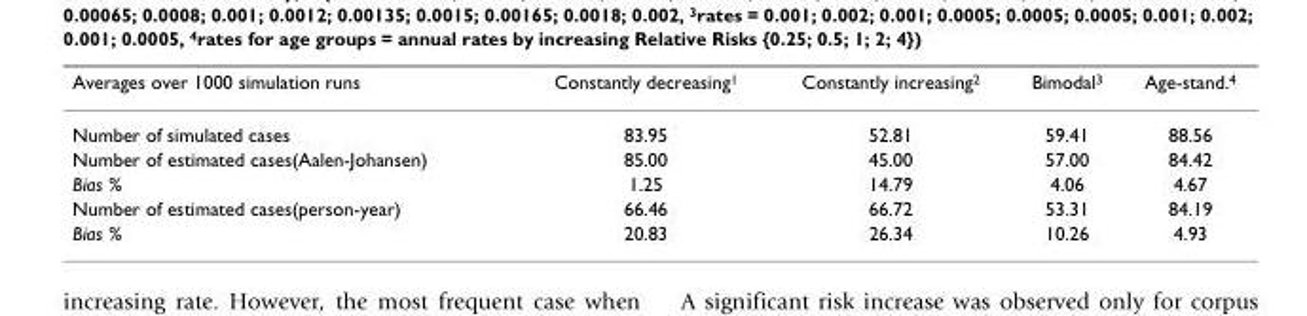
<table><thead><tr><td>Averages over 1000 simulation runs</td><td>Constantly decreasing<sup>1</sup></td><td>Constantly increasing<sup>2</sup></td><td>Bimodal<sup>3</sup></td><td>Age-stand.<sup>4</sup></td></tr></thead><tbody><tr><td>Number of simulated cases</td><td>83.95</td><td>52.81</td><td>59.41</td><td>88.56</td></tr><tr><td>Number of estimated cases(Aalen-Johansen)</td><td>85.00</td><td>45.00</td><td>57.00</td><td>84.42</td></tr><tr><td>Bias %</td><td>1.25</td><td>14.79</td><td>4.06</td><td>4.67</td></tr><tr><td>Number of estimated cases(person-year)</td><td>66.46</td><td>66.72</td><td>53.31</td><td>84.19</td></tr><tr><td>Bias %</td><td>20.83</td><td>26.34</td><td>10.26</td><td>4.93</td></tr></tbody></table>